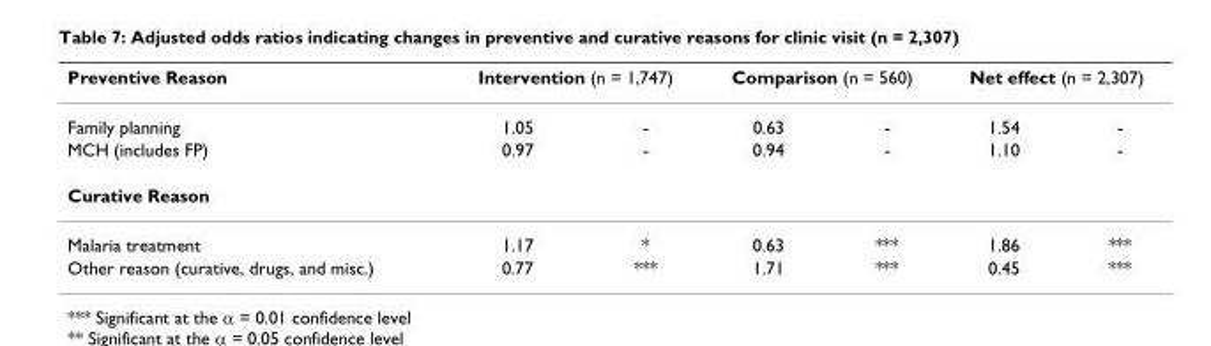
<table><thead><tr><td rowspan="2">Preventive Reason Family planning</td><td colspan="2">Intervention (n = 1,747)</td><td colspan="2">Comparison (n = 560)</td><td colspan="2">Net effect (n = 2,307)</td></tr><tr><td>1.05</td><td>-</td><td>0.63</td><td>-</td><td>1.54</td><td>-</td></tr></thead><tbody><tr><td>MCH (includes FP)</td><td>0.97</td><td>-</td><td>0.94</td><td>-</td><td>1.10</td><td>-</td></tr><tr><td colspan="7">Curative Reason</td></tr><tr><td>Malaria treatment</td><td>1.17</td><td>*</td><td>0.63</td><td>***</td><td>1.86</td><td>***</td></tr><tr><td>Other reason (curative, drugs, and misc.)</td><td>0.77</td><td>***</td><td>1.71</td><td>***</td><td>0.45</td><td>***</td></tr></tbody></table>